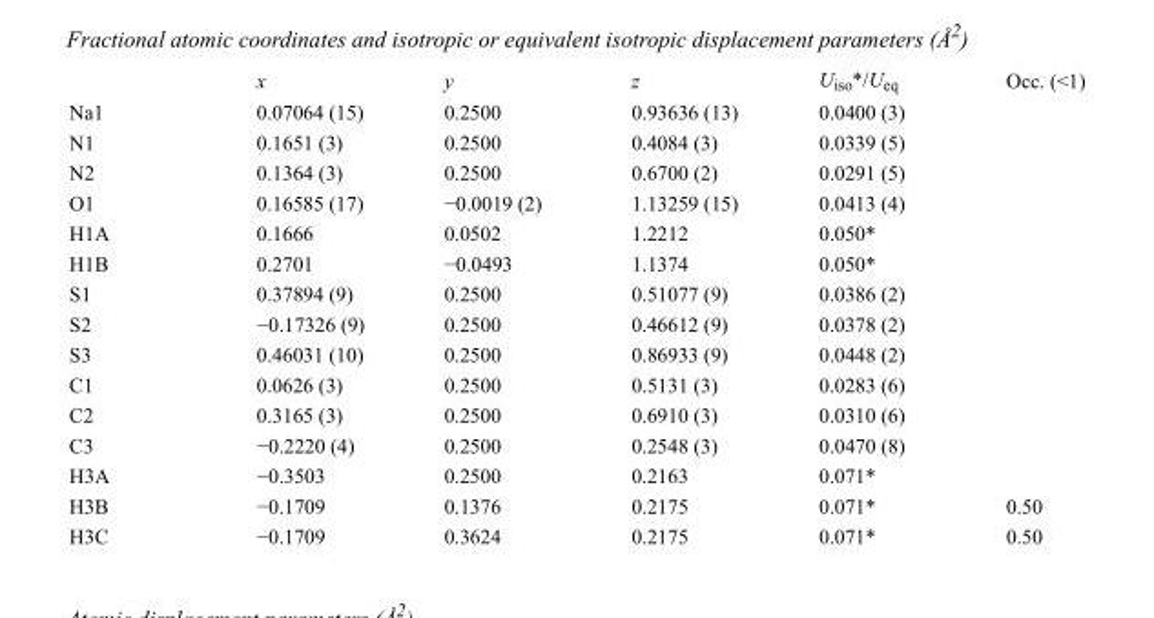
<table><thead><tr><td></td><td>x</td><td>y</td><td>z</td><td>U<sub>iso</sub>*/U<sub>eq</sub></td><td>Occ. (&lt;1)</td></tr></thead><tbody><tr><td>Na1</td><td>0.07064 (15)</td><td>0.2500</td><td>0.93636 (13)</td><td>0.0400 (3)</td><td></td></tr><tr><td>N1</td><td>0.1651 (3)</td><td>0.2500</td><td>0.4084 (3)</td><td>0.0339 (5)</td><td></td></tr><tr><td>N2</td><td>0.1364 (3)</td><td>0.2500</td><td>0.6700 (2)</td><td>0.0291 (5)</td><td></td></tr><tr><td>O1</td><td>0.16585 (17)</td><td>−0.0019 (2)</td><td>1.13259 (15)</td><td>0.0413 (4)</td><td></td></tr><tr><td>H1A</td><td>0.1666</td><td>0.0502</td><td>1.2212</td><td>0.050*</td><td></td></tr><tr><td>H1B</td><td>0.2701</td><td>−0.0493</td><td>1.1374</td><td>0.050*</td><td></td></tr><tr><td>S1</td><td>0.37894 (9)</td><td>0.2500</td><td>0.51077 (9)</td><td>0.0386 (2)</td><td></td></tr><tr><td>S2</td><td>−0.17326 (9)</td><td>0.2500</td><td>0.46612 (9)</td><td>0.0378 (2)</td><td></td></tr><tr><td>S3</td><td>0.46031 (10)</td><td>0.2500</td><td>0.86933 (9)</td><td>0.0448 (2)</td><td></td></tr><tr><td>C1</td><td>0.0626 (3)</td><td>0.2500</td><td>0.5131 (3)</td><td>0.0283 (6)</td><td></td></tr><tr><td>C2</td><td>0.3165 (3)</td><td>0.2500</td><td>0.6910 (3)</td><td>0.0310 (6)</td><td></td></tr><tr><td>C3</td><td>−0.2220 (4)</td><td>0.2500</td><td>0.2548 (3)</td><td>0.0470 (8)</td><td></td></tr><tr><td>H3A</td><td>−0.3503</td><td>0.2500</td><td>0.2163</td><td>0.071*</td><td></td></tr><tr><td>H3B</td><td>−0.1709</td><td>0.1376</td><td>0.2175</td><td>0.071*</td><td>0.50</td></tr><tr><td>H3C</td><td>−0.1709</td><td>0.3624</td><td>0.2175</td><td>0.071*</td><td>0.50</td></tr></tbody></table>